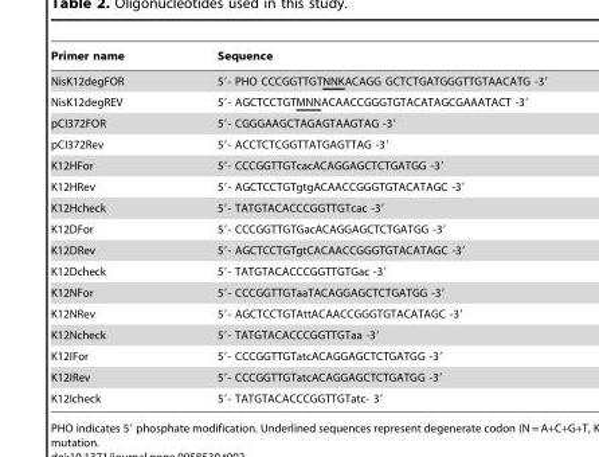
<table><thead><tr><td>Primer name</td><td>Sequence</td></tr></thead><tbody><tr><td>NisK12degFOR</td><td>5′- PHO CCCGGTTGTNNKACAGG GCTCTGATGGGTTGTAACATG -3′</td></tr><tr><td>NisK12degREV</td><td>5′- AGCTCCTGTMNNACAACCGGGTGTACATAGCGAAATACT -3′</td></tr><tr><td>pCI372FOR</td><td>5′- CGGGAAGCTAGAGTAAGTAG -3′</td></tr><tr><td>pCI372Rev</td><td>5′- ACCTCTCGGTTATGAGTTAG -3′</td></tr><tr><td>K12HFor</td><td>5′- CCCGGTTGTcacACAGGAGCTCTGATGG -3′</td></tr><tr><td>K12HRev</td><td>5′- AGCTCCTGTgtgACAACCGGGTGTACATAGC -3′</td></tr><tr><td>K12Hcheck</td><td>5′- TATGTACACCCGGTTGTcac -3′</td></tr><tr><td>K12DFor</td><td>5′- CCCGGTTGTGacACAGGAGCTCTGATGG -3′</td></tr><tr><td>K12DRev</td><td>5′- AGCTCCTGTgtCACAACCGGGTGTACATAGC -3′</td></tr><tr><td>K12Dcheck</td><td>5′- TATGTACACCCGGTTGTGac -3′</td></tr><tr><td>K12NFor</td><td>5′- CCCGGTTGTaaTACAGGAGCTCTGATGG -3′</td></tr><tr><td>K12NRev</td><td>5′- AGCTCCTGTAttACAACCGGGTGTACATAGC -3′</td></tr><tr><td>K12Ncheck</td><td>5′- TATGTACACCCGGTTGTaa -3′</td></tr><tr><td>K12IFor</td><td>5′- CCCGGTTGTatcACAGGAGCTCTGATGG -3′</td></tr><tr><td>K12IRev</td><td>5′- CCCGGTTGTatcACAGGAGCTCTGATGG -3′</td></tr><tr><td>K12Icheck</td><td>5′- TATGTACACCCGGTTGTatc- 3′</td></tr></tbody></table>